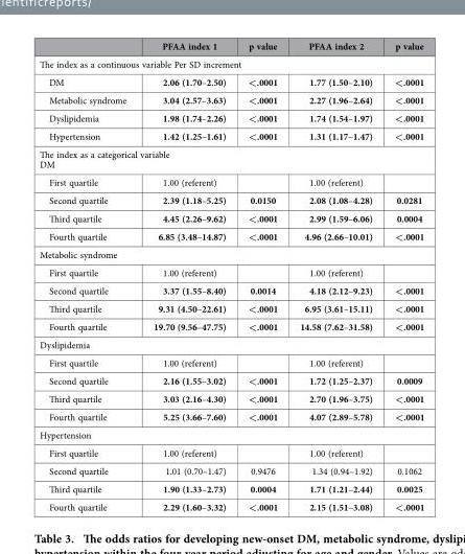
<table><thead><tr><td></td><td>PFAA index 1</td><td>p value</td><td>PFAA index 2</td><td>p value</td></tr></thead><tbody><tr><td colspan="5">The index as a continuous variable Per SD increment</td></tr><tr><td>DM</td><td>2.06 (1.70–2.50)</td><td>&lt;.0001</td><td>1.77 (1.50–2.10)</td><td>&lt;.0001</td></tr><tr><td>Metabolic syndrome</td><td>3.04 (2.57–3.63)</td><td>&lt;.0001</td><td>2.27 (1.96–2.64)</td><td>&lt;.0001</td></tr><tr><td>Dyslipidemia</td><td>1.98 (1.74–2.26)</td><td>&lt;.0001</td><td>1.74 (1.54–1.97)</td><td>&lt;.0001</td></tr><tr><td>Hypertension</td><td>1.42 (1.25–1.61)</td><td>&lt;.0001</td><td>1.31 (1.17–1.47)</td><td>&lt;.0001</td></tr><tr><td colspan="5">The index as a categorical variable DM</td></tr><tr><td>First quartile</td><td>1.00 (referent)</td><td></td><td>1.00 (referent)</td><td></td></tr><tr><td>Second quartile</td><td>2.39 (1.18–5.25)</td><td>0.0150</td><td>2.08 (1.08–4.28)</td><td>0.0281</td></tr><tr><td>Third quartile</td><td>4.45 (2.26–9.62)</td><td>&lt;.0001</td><td>2.99 (1.59–6.06)</td><td>0.0004</td></tr><tr><td>Fourth quartile</td><td>6.85 (3.48–14.87)</td><td>&lt;.0001</td><td>4.96 (2.66–10.01)</td><td>&lt;.0001</td></tr><tr><td colspan="5">Metabolic syndrome</td></tr><tr><td>First quartile</td><td>1.00 (referent)</td><td></td><td>1.00 (referent)</td><td></td></tr><tr><td>Second quartile</td><td>3.37 (1.55–8.40)</td><td>0.0014</td><td>4.18 (2.12–9.23)</td><td>&lt;.0001</td></tr><tr><td>Third quartile</td><td>9.31 (4.50–22.61)</td><td>&lt;.0001</td><td>6.95 (3.61–15.11)</td><td>&lt;.0001</td></tr><tr><td>Fourth quartile</td><td>19.70 (9.56–47.75)</td><td>&lt;.0001</td><td>14.58 (7.62–31.58)</td><td>&lt;.0001</td></tr><tr><td colspan="5">Dyslipidemia</td></tr><tr><td>First quartile</td><td>1.00 (referent)</td><td></td><td>1.00 (referent)</td><td></td></tr><tr><td>Second quartile</td><td>2.16 (1.55–3.02)</td><td>&lt;.0001</td><td>1.72 (1.25–2.37)</td><td>0.0009</td></tr><tr><td>Third quartile</td><td>3.03 (2.16–4.30)</td><td>&lt;.0001</td><td>2.70 (1.96–3.75)</td><td>&lt;.0001</td></tr><tr><td>Fourth quartile</td><td>5.25 (3.66–7.60)</td><td>&lt;.0001</td><td>4.07 (2.89–5.78)</td><td>&lt;.0001</td></tr><tr><td colspan="5">Hypertension</td></tr><tr><td>First quartile</td><td>1.00 (referent)</td><td></td><td>1.00 (referent)</td><td></td></tr><tr><td>Second quartile</td><td>1.01 (0.70–1.47)</td><td>0.9476</td><td>1.34 (0.94–1.92)</td><td>0.1062</td></tr><tr><td>Third quartile</td><td>1.90 (1.33–2.73)</td><td>0.0004</td><td>1.71 (1.21–2.44)</td><td>0.0025</td></tr><tr><td>Fourth quartile</td><td>2.29 (1.60–3.32)</td><td>&lt;.0001</td><td>2.15 (1.51–3.08)</td><td>&lt;.0001</td></tr></tbody></table>